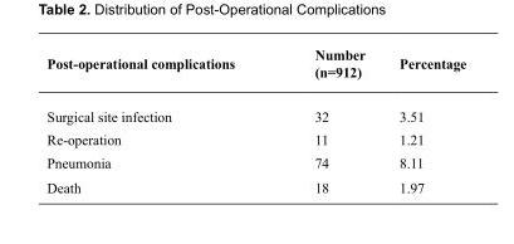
<table><thead><tr><td>Post-operational complications</td><td>Number (n=912)</td><td>Percentage</td></tr></thead><tbody><tr><td>Surgical site infection</td><td>32</td><td>3.51</td></tr><tr><td>Re-operation</td><td>11</td><td>1.21</td></tr><tr><td>Pneumonia</td><td>74</td><td>8.11</td></tr><tr><td>Death</td><td>18</td><td>1.97</td></tr></tbody></table>